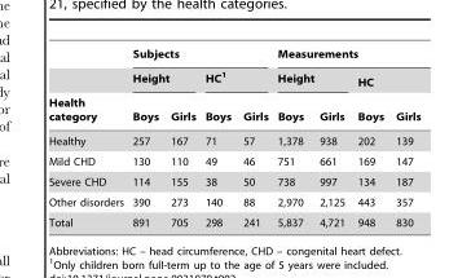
<table><thead><tr><td rowspan="3">Health category</td><td colspan="4">Subjects</td><td colspan="4">Measurements</td></tr><tr><td colspan="2">Height</td><td colspan="2">HC<sup>1</sup></td><td colspan="2">Height</td><td colspan="2">HC</td></tr><tr><td>Boys</td><td>Girls</td><td>Boys</td><td>Girls</td><td>Boys</td><td>Girls</td><td>Boys</td><td>Girls</td></tr></thead><tbody><tr><td>Healthy</td><td>257</td><td>167</td><td>71</td><td>57</td><td>1,378</td><td>938</td><td>202</td><td>139</td></tr><tr><td>Mild CHD</td><td>130</td><td>110</td><td>49</td><td>46</td><td>751</td><td>661</td><td>169</td><td>147</td></tr><tr><td>Severe CHD</td><td>114</td><td>155</td><td>38</td><td>50</td><td>738</td><td>997</td><td>134</td><td>187</td></tr><tr><td>Other disorders</td><td>390</td><td>273</td><td>140</td><td>88</td><td>2,970</td><td>2,125</td><td>443</td><td>357</td></tr><tr><td>Total</td><td>891</td><td>705</td><td>298</td><td>241</td><td>5,837</td><td>4,721</td><td>948</td><td>830</td></tr></tbody></table>